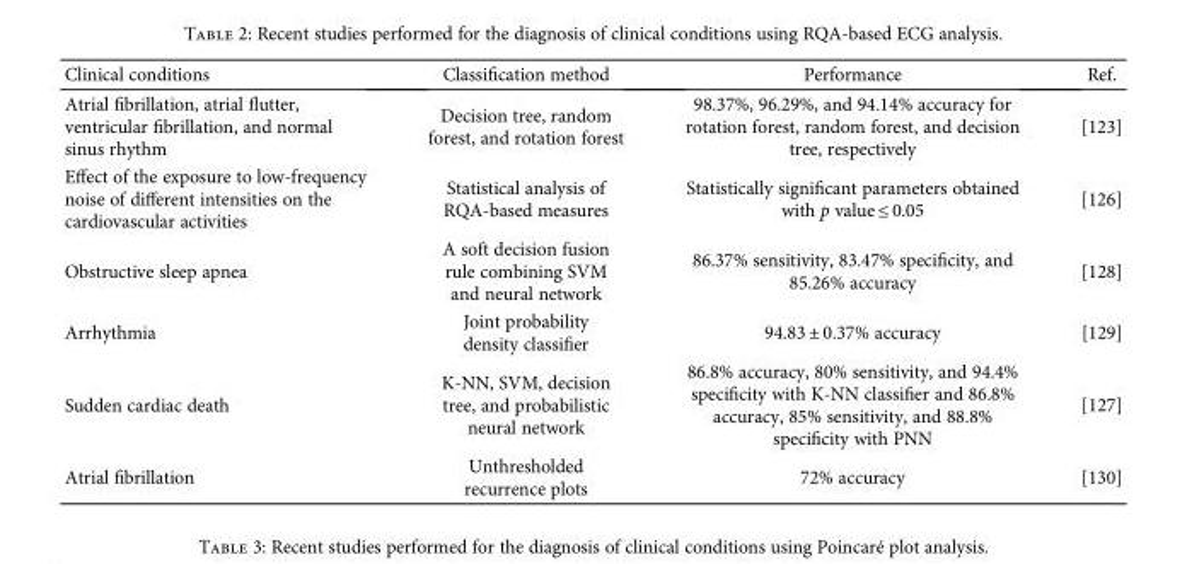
<table><thead><tr><td>Clinical conditions</td><td>Classification method</td><td>Performance</td><td>Ref.</td></tr></thead><tbody><tr><td>Atrial fibrillation, atrial flutter, ventricular fibrillation, and normal sinus rhythm</td><td>Decision tree, random forest, and rotation forest</td><td>98.37%, 96.29%, and 94.14% accuracy for rotation forest, random forest, and decision tree, respectively</td><td>[123]</td></tr><tr><td>Effect of the exposure to low-frequency noise of different intensities on the cardiovascular activities</td><td>Statistical analysis of RQA-based measures</td><td>Statistically significant parameters obtained with p value ≤ 0.05</td><td>[126]</td></tr><tr><td>Obstructive sleep apnea</td><td>A soft decision fusion rule combining SVM and neural network</td><td>86.37% sensitivity, 83.47% specificity, and 85.26% accuracy</td><td>[128]</td></tr><tr><td>Arrhythmia</td><td>Joint probability density classifier</td><td>94.83 ± 0.37% accuracy</td><td>[129]</td></tr><tr><td>Sudden cardiac death</td><td>K-NN, SVM, decision tree, and probabilistic neural network</td><td>86.8% accuracy, 80% sensitivity, and 94.4% specificity with K-NN classifier and 86.8% accuracy, 85% sensitivity, and 88.8% specificity with PNN</td><td>[127]</td></tr><tr><td>Atrial fibrillation</td><td>Unthresholded recurrence plots</td><td>72% accuracy</td><td>[130]</td></tr></tbody></table>